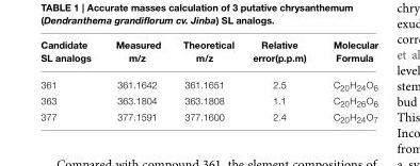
<table><thead><tr><td>Candidate SL analogs</td><td>Measured m/z</td><td>Theoretical m/z</td><td>Relative error(p.p.m)</td><td>Molecular Formula</td></tr></thead><tbody><tr><td>361</td><td>361.1642</td><td>361.1651</td><td>2.5</td><td>C<sub>20</sub>H<sub>24</sub>O<sub>6</sub></td></tr><tr><td>363</td><td>363.1804</td><td>363.1808</td><td>1.1</td><td>C<sub>20</sub>H<sub>26</sub>O<sub>6</sub></td></tr><tr><td>377</td><td>377.1591</td><td>377.1600</td><td>2.4</td><td>C<sub>20</sub>H<sub>24</sub>O<sub>7</sub></td></tr></tbody></table>